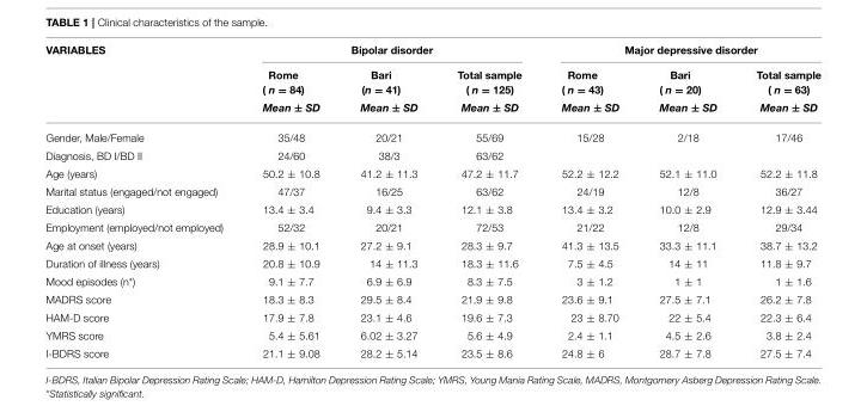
<table><thead><tr><td rowspan="3">VARIABLES</td><td colspan="3">Bipolar disorder</td><td colspan="3">Major depressive disorder</td></tr><tr><td rowspan="2">Rome ( n = 84) Mean ± SD</td><td rowspan="2">Bari (n = 41) Mean ± SD</td><td rowspan="2">Total sample ( n = 125) Mean ± SD</td><td rowspan="2">Rome ( n = 43) Mean ± SD</td><td rowspan="2">Bari ( n = 20) Mean ± SD</td><td rowspan="2">Total sample ( n = 63) Mean ± SD</td></tr><tr></tr></thead><tbody><tr><td>Gender, Male/Female</td><td>35/48</td><td>20/21</td><td>55/69</td><td>15/28</td><td>2/18</td><td>17/46</td></tr><tr><td>Diagnosis, BD I/BD II</td><td>24/60</td><td>38/3</td><td>63/62</td><td></td><td></td><td></td></tr><tr><td>Age (years)</td><td>50.2 ± 10.8</td><td>41.2 ± 11.3</td><td>47.2 ± 11.7</td><td>52.2 ± 12.2</td><td>52.1 ± 11.0</td><td>52.2 ± 11.8</td></tr><tr><td>Marital status (engaged/not engaged)</td><td>47/37</td><td>16/25</td><td>63/62</td><td>24/19</td><td>12/8</td><td>36/27</td></tr><tr><td>Education (years)</td><td>13.4 ± 3.4</td><td>9.4 ± 3.3</td><td>12.1 ± 3.8</td><td>13.4 ± 3.2</td><td>10.0 ± 2.9</td><td>12.9 ± 3.44</td></tr><tr><td>Employment (employed/not employed)</td><td>52/32</td><td>20/21</td><td>72/53</td><td>21/22</td><td>12/8</td><td>29/34</td></tr><tr><td>Age at onset (years)</td><td>28.9 ± 10.1</td><td>27.2 ± 9.1</td><td>28.3 ± 9.7</td><td>41.3 ± 13.5</td><td>33.3 ± 11.1</td><td>38.7 ± 13.2</td></tr><tr><td>Duration of illness (years)</td><td>20.8 ± 10.9</td><td>14 ± 11.3</td><td>18.3 ± 11.6</td><td>7.5 ± 4.5</td><td>14 ± 11</td><td>11.8 ± 9.7</td></tr><tr><td>Mood episodes (n*)</td><td>9.1 ± 7.7</td><td>6.9 ± 6.9</td><td>8.3 ± 7.5</td><td>3 ± 1.2</td><td>1 ± 1</td><td>1 ± 1.6</td></tr><tr><td>MADRS score</td><td>18.3 ± 8.3</td><td>29.5 ± 8.4</td><td>21.9 ± 9.8</td><td>23.6 ± 9.1</td><td>27.5 ± 7.1</td><td>26.2 ± 7.8</td></tr><tr><td>HAM-D score</td><td>17.9 ± 7.8</td><td>23.1 ± 4.6</td><td>19.6 ± 7.3</td><td>23 ± 8.70</td><td>22 ± 5.4</td><td>22.3 ± 6.4</td></tr><tr><td>YMRS score</td><td>5.4 ± 5.61</td><td>6.02 ± 3.27</td><td>5.6 ± 4.9</td><td>2.4 ± 1.1</td><td>4.5 ± 2.6</td><td>3.8 ± 2.4</td></tr><tr><td>I-BDRS score</td><td>21.1 ± 9.08</td><td>28.2 ± 5.14</td><td>23.5 ± 8.6</td><td>24.8 ± 6</td><td>28.7 ± 7.8</td><td>27.5 ± 7.4</td></tr></tbody></table>